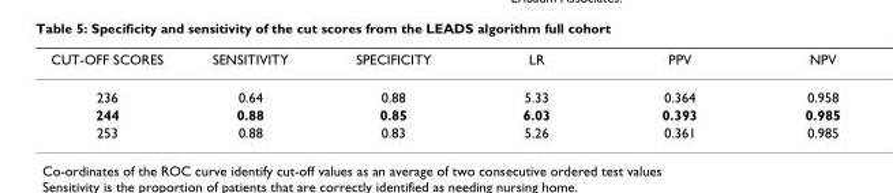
<table><thead><tr><td>CUT-OFF SCORES</td><td>SENSITIVITY</td><td>SPECIFICITY</td><td>LR</td><td>PPV</td><td>NPV</td></tr></thead><tbody><tr><td>236</td><td>0.64</td><td>0.88</td><td>5.33</td><td>0.364</td><td>0.958</td></tr><tr><td>244</td><td>0.88</td><td>0.85</td><td>6.03</td><td>0.393</td><td>0.985</td></tr><tr><td>253</td><td>0.88</td><td>0.83</td><td>5.26</td><td>0.361</td><td>0.985</td></tr></tbody></table>